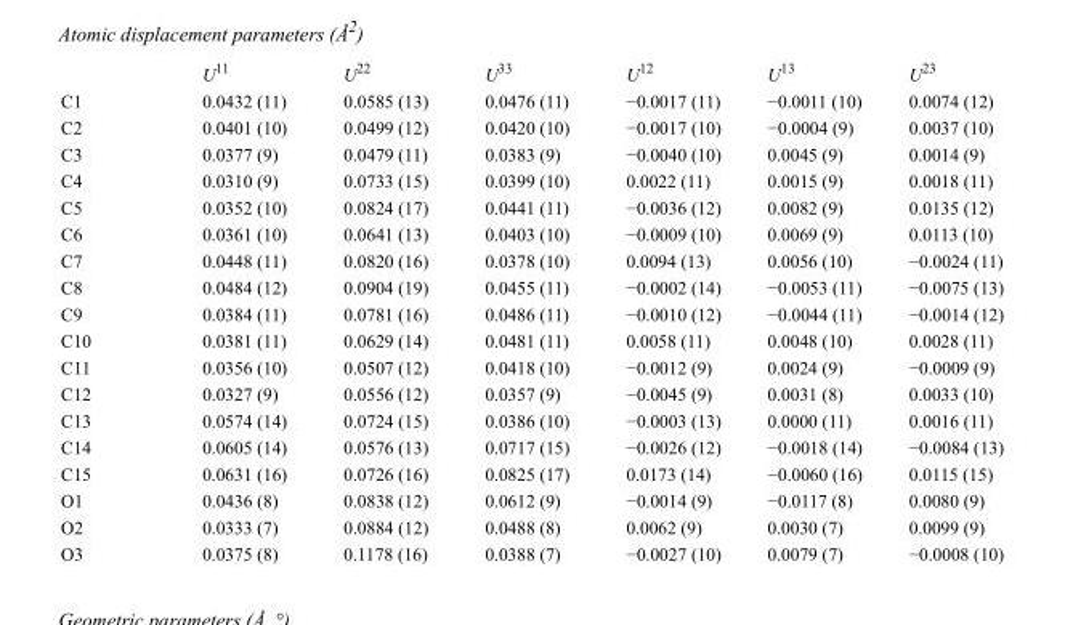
<table><thead><tr><td></td><td>U<sup>11</sup></td><td>U<sup>22</sup></td><td>U<sup>33</sup></td><td>U<sup>12</sup></td><td>U<sup>13</sup></td><td>U<sup>23</sup></td></tr></thead><tbody><tr><td>C1</td><td>0.0432 (11)</td><td>0.0585 (13)</td><td>0.0476 (11)</td><td>−0.0017 (11)</td><td>−0.0011 (10)</td><td>0.0074 (12)</td></tr><tr><td>C2</td><td>0.0401 (10)</td><td>0.0499 (12)</td><td>0.0420 (10)</td><td>−0.0017 (10)</td><td>−0.0004 (9)</td><td>0.0037 (10)</td></tr><tr><td>C3</td><td>0.0377 (9)</td><td>0.0479 (11)</td><td>0.0383 (9)</td><td>−0.0040 (10)</td><td>0.0045 (9)</td><td>0.0014 (9)</td></tr><tr><td>C4</td><td>0.0310 (9)</td><td>0.0733 (15)</td><td>0.0399 (10)</td><td>0.0022 (11)</td><td>0.0015 (9)</td><td>0.0018 (11)</td></tr><tr><td>C5</td><td>0.0352 (10)</td><td>0.0824 (17)</td><td>0.0441 (11)</td><td>−0.0036 (12)</td><td>0.0082 (9)</td><td>0.0135 (12)</td></tr><tr><td>C6</td><td>0.0361 (10)</td><td>0.0641 (13)</td><td>0.0403 (10)</td><td>−0.0009 (10)</td><td>0.0069 (9)</td><td>0.0113 (10)</td></tr><tr><td>C7</td><td>0.0448 (11)</td><td>0.0820 (16)</td><td>0.0378 (10)</td><td>0.0094 (13)</td><td>0.0056 (10)</td><td>−0.0024 (11)</td></tr><tr><td>C8</td><td>0.0484 (12)</td><td>0.0904 (19)</td><td>0.0455 (11)</td><td>−0.0002 (14)</td><td>−0.0053 (11)</td><td>−0.0075 (13)</td></tr><tr><td>C9</td><td>0.0384 (11)</td><td>0.0781 (16)</td><td>0.0486 (11)</td><td>−0.0010 (12)</td><td>−0.0044 (11)</td><td>−0.0014 (12)</td></tr><tr><td>C10</td><td>0.0381 (11)</td><td>0.0629 (14)</td><td>0.0481 (11)</td><td>0.0058 (11)</td><td>0.0048 (10)</td><td>0.0028 (11)</td></tr><tr><td>C11</td><td>0.0356 (10)</td><td>0.0507 (12)</td><td>0.0418 (10)</td><td>−0.0012 (9)</td><td>0.0024 (9)</td><td>−0.0009 (9)</td></tr><tr><td>C12</td><td>0.0327 (9)</td><td>0.0556 (12)</td><td>0.0357 (9)</td><td>−0.0045 (9)</td><td>0.0031 (8)</td><td>0.0033 (10)</td></tr><tr><td>C13</td><td>0.0574 (14)</td><td>0.0724 (15)</td><td>0.0386 (10)</td><td>−0.0003 (13)</td><td>0.0000 (11)</td><td>0.0016 (11)</td></tr><tr><td>C14</td><td>0.0605 (14)</td><td>0.0576 (13)</td><td>0.0717 (15)</td><td>−0.0026 (12)</td><td>−0.0018 (14)</td><td>−0.0084 (13)</td></tr><tr><td>C15</td><td>0.0631 (16)</td><td>0.0726 (16)</td><td>0.0825 (17)</td><td>0.0173 (14)</td><td>−0.0060 (16)</td><td>0.0115 (15)</td></tr><tr><td>O1</td><td>0.0436 (8)</td><td>0.0838 (12)</td><td>0.0612 (9)</td><td>−0.0014 (9)</td><td>−0.0117 (8)</td><td>0.0080 (9)</td></tr><tr><td>O2</td><td>0.0333 (7)</td><td>0.0884 (12)</td><td>0.0488 (8)</td><td>0.0062 (9)</td><td>0.0030 (7)</td><td>0.0099 (9)</td></tr><tr><td>O3</td><td>0.0375 (8)</td><td>0.1178 (16)</td><td>0.0388 (7)</td><td>−0.0027 (10)</td><td>0.0079 (7)</td><td>−0.0008 (10)</td></tr></tbody></table>